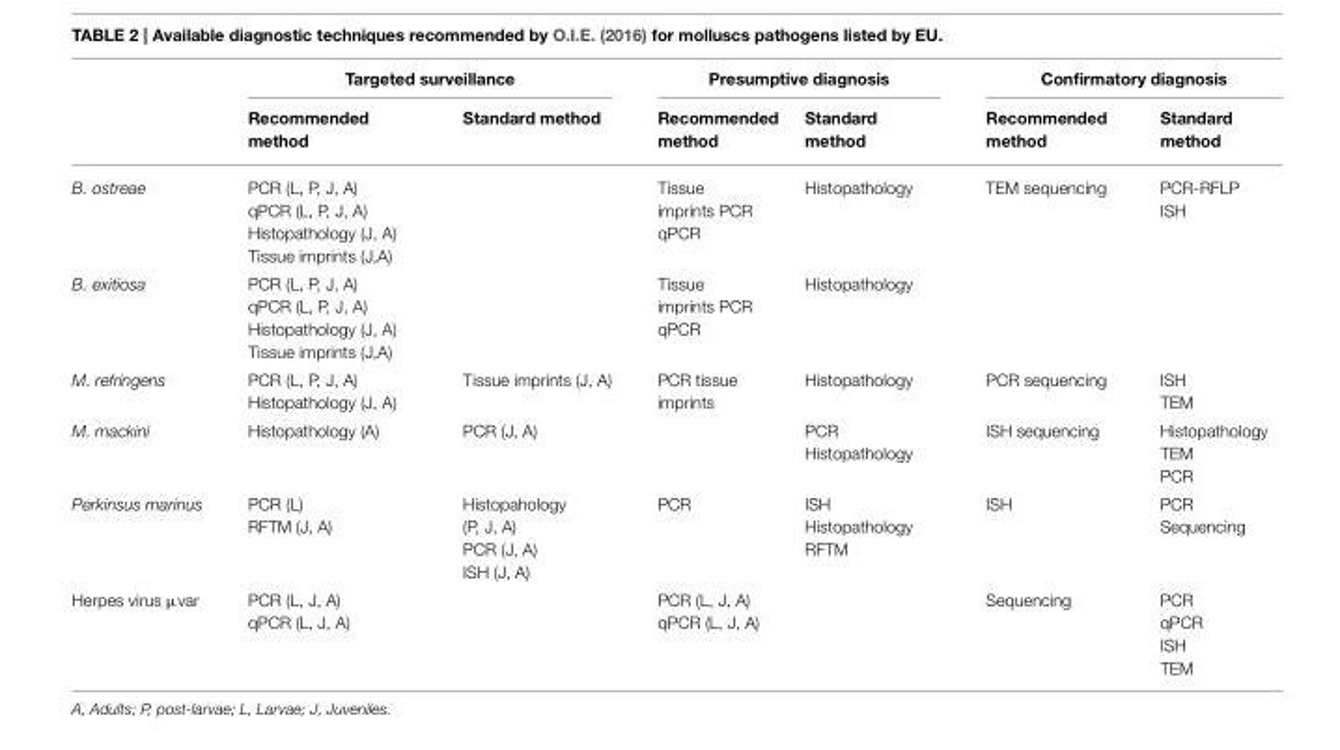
<table><thead><tr><td rowspan="2"></td><td colspan="2">Targeted surveillance</td><td colspan="2">Presumptive diagnosis</td><td colspan="2">Confirmatory diagnosis</td></tr><tr><td>Recommended method</td><td>Standard method</td><td>Recommended method</td><td>Standard method</td><td>Recommended method</td><td>Standard method</td></tr></thead><tbody><tr><td>B. ostreae</td><td>PCR (L, P, J, A) qPCR (L, P, J, A) Histopathology (J, A) Tissue imprints (J,A)</td><td></td><td>Tissue imprints PCR qPCR</td><td>Histopathology</td><td>TEM sequencing</td><td>PCR-RFLP ISH</td></tr><tr><td>B. exitiosa</td><td>PCR (L, P, J, A) qPCR (L, P, J, A) Histopathology (J, A) Tissue imprints (J,A)</td><td></td><td>Tissue imprints PCR qPCR</td><td>Histopathology</td><td></td><td></td></tr><tr><td>M. refringens</td><td>PCR (L, P, J, A) Histopathology (J, A)</td><td>Tissue imprints (J, A)</td><td>PCR tissue imprints</td><td>Histopathology</td><td>PCR sequencing</td><td>ISH TEM</td></tr><tr><td>M. mackini</td><td>Histopathology (A)</td><td>PCR (J, A)</td><td></td><td>PCR Histopathology</td><td>ISH sequencing</td><td>Histopathology TEM PCR</td></tr><tr><td>Perkinsus marinus</td><td>PCR (L) RFTM (J, A)</td><td>Histopahology (P, J, A) PCR (J, A) ISH (J, A)</td><td>PCR</td><td>ISH Histopathology RFTM</td><td>ISH</td><td>PCR Sequencing</td></tr><tr><td>Herpes virus µvar</td><td>PCR (L, J, A) qPCR (L, J, A)</td><td></td><td>PCR (L, J, A) qPCR (L, J, A)</td><td></td><td>Sequencing</td><td>PCR qPCR ISH TEM</td></tr></tbody></table>